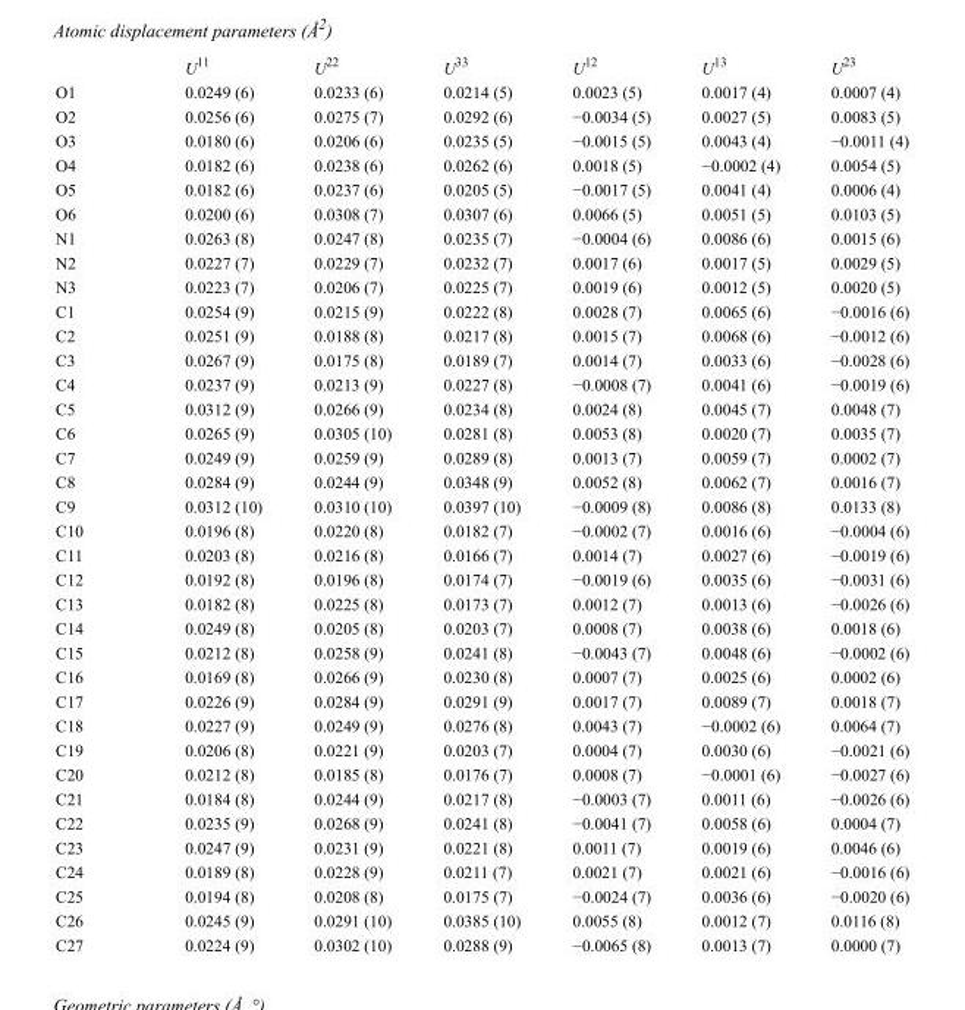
<table><thead><tr><td></td><td>U<sup>11</sup></td><td>U<sup>22</sup></td><td>U<sup>33</sup></td><td>U<sup>12</sup></td><td>U<sup>13</sup></td><td>U<sup>23</sup></td></tr></thead><tbody><tr><td>O1</td><td>0.0249 (6)</td><td>0.0233 (6)</td><td>0.0214 (5)</td><td>0.0023 (5)</td><td>0.0017 (4)</td><td>0.0007 (4)</td></tr><tr><td>O2</td><td>0.0256 (6)</td><td>0.0275 (7)</td><td>0.0292 (6)</td><td>−0.0034 (5)</td><td>0.0027 (5)</td><td>0.0083 (5)</td></tr><tr><td>O3</td><td>0.0180 (6)</td><td>0.0206 (6)</td><td>0.0235 (5)</td><td>−0.0015 (5)</td><td>0.0043 (4)</td><td>−0.0011 (4)</td></tr><tr><td>O4</td><td>0.0182 (6)</td><td>0.0238 (6)</td><td>0.0262 (6)</td><td>0.0018 (5)</td><td>−0.0002 (4)</td><td>0.0054 (5)</td></tr><tr><td>O5</td><td>0.0182 (6)</td><td>0.0237 (6)</td><td>0.0205 (5)</td><td>−0.0017 (5)</td><td>0.0041 (4)</td><td>0.0006 (4)</td></tr><tr><td>O6</td><td>0.0200 (6)</td><td>0.0308 (7)</td><td>0.0307 (6)</td><td>0.0066 (5)</td><td>0.0051 (5)</td><td>0.0103 (5)</td></tr><tr><td>N1</td><td>0.0263 (8)</td><td>0.0247 (8)</td><td>0.0235 (7)</td><td>−0.0004 (6)</td><td>0.0086 (6)</td><td>0.0015 (6)</td></tr><tr><td>N2</td><td>0.0227 (7)</td><td>0.0229 (7)</td><td>0.0232 (7)</td><td>0.0017 (6)</td><td>0.0017 (5)</td><td>0.0029 (5)</td></tr><tr><td>N3</td><td>0.0223 (7)</td><td>0.0206 (7)</td><td>0.0225 (7)</td><td>0.0019 (6)</td><td>0.0012 (5)</td><td>0.0020 (5)</td></tr><tr><td>C1</td><td>0.0254 (9)</td><td>0.0215 (9)</td><td>0.0222 (8)</td><td>0.0028 (7)</td><td>0.0065 (6)</td><td>−0.0016 (6)</td></tr><tr><td>C2</td><td>0.0251 (9)</td><td>0.0188 (8)</td><td>0.0217 (8)</td><td>0.0015 (7)</td><td>0.0068 (6)</td><td>−0.0012 (6)</td></tr><tr><td>C3</td><td>0.0267 (9)</td><td>0.0175 (8)</td><td>0.0189 (7)</td><td>0.0014 (7)</td><td>0.0033 (6)</td><td>−0.0028 (6)</td></tr><tr><td>C4</td><td>0.0237 (9)</td><td>0.0213 (9)</td><td>0.0227 (8)</td><td>−0.0008 (7)</td><td>0.0041 (6)</td><td>−0.0019 (6)</td></tr><tr><td>C5</td><td>0.0312 (9)</td><td>0.0266 (9)</td><td>0.0234 (8)</td><td>0.0024 (8)</td><td>0.0045 (7)</td><td>0.0048 (7)</td></tr><tr><td>C6</td><td>0.0265 (9)</td><td>0.0305 (10)</td><td>0.0281 (8)</td><td>0.0053 (8)</td><td>0.0020 (7)</td><td>0.0035 (7)</td></tr><tr><td>C7</td><td>0.0249 (9)</td><td>0.0259 (9)</td><td>0.0289 (8)</td><td>0.0013 (7)</td><td>0.0059 (7)</td><td>0.0002 (7)</td></tr><tr><td>C8</td><td>0.0284 (9)</td><td>0.0244 (9)</td><td>0.0348 (9)</td><td>0.0052 (8)</td><td>0.0062 (7)</td><td>0.0016 (7)</td></tr><tr><td>C9</td><td>0.0312 (10)</td><td>0.0310 (10)</td><td>0.0397 (10)</td><td>−0.0009 (8)</td><td>0.0086 (8)</td><td>0.0133 (8)</td></tr><tr><td>C10</td><td>0.0196 (8)</td><td>0.0220 (8)</td><td>0.0182 (7)</td><td>−0.0002 (7)</td><td>0.0016 (6)</td><td>−0.0004 (6)</td></tr><tr><td>C11</td><td>0.0203 (8)</td><td>0.0216 (8)</td><td>0.0166 (7)</td><td>0.0014 (7)</td><td>0.0027 (6)</td><td>−0.0019 (6)</td></tr><tr><td>C12</td><td>0.0192 (8)</td><td>0.0196 (8)</td><td>0.0174 (7)</td><td>−0.0019 (6)</td><td>0.0035 (6)</td><td>−0.0031 (6)</td></tr><tr><td>C13</td><td>0.0182 (8)</td><td>0.0225 (8)</td><td>0.0173 (7)</td><td>0.0012 (7)</td><td>0.0013 (6)</td><td>−0.0026 (6)</td></tr><tr><td>C14</td><td>0.0249 (8)</td><td>0.0205 (8)</td><td>0.0203 (7)</td><td>0.0008 (7)</td><td>0.0038 (6)</td><td>0.0018 (6)</td></tr><tr><td>C15</td><td>0.0212 (8)</td><td>0.0258 (9)</td><td>0.0241 (8)</td><td>−0.0043 (7)</td><td>0.0048 (6)</td><td>−0.0002 (6)</td></tr><tr><td>C16</td><td>0.0169 (8)</td><td>0.0266 (9)</td><td>0.0230 (8)</td><td>0.0007 (7)</td><td>0.0025 (6)</td><td>0.0002 (6)</td></tr><tr><td>C17</td><td>0.0226 (9)</td><td>0.0284 (9)</td><td>0.0291 (9)</td><td>0.0017 (7)</td><td>0.0089 (7)</td><td>0.0018 (7)</td></tr><tr><td>C18</td><td>0.0227 (9)</td><td>0.0249 (9)</td><td>0.0276 (8)</td><td>0.0043 (7)</td><td>−0.0002 (6)</td><td>0.0064 (7)</td></tr><tr><td>C19</td><td>0.0206 (8)</td><td>0.0221 (9)</td><td>0.0203 (7)</td><td>0.0004 (7)</td><td>0.0030 (6)</td><td>−0.0021 (6)</td></tr><tr><td>C20</td><td>0.0212 (8)</td><td>0.0185 (8)</td><td>0.0176 (7)</td><td>0.0008 (7)</td><td>−0.0001 (6)</td><td>−0.0027 (6)</td></tr><tr><td>C21</td><td>0.0184 (8)</td><td>0.0244 (9)</td><td>0.0217 (8)</td><td>−0.0003 (7)</td><td>0.0011 (6)</td><td>−0.0026 (6)</td></tr><tr><td>C22</td><td>0.0235 (9)</td><td>0.0268 (9)</td><td>0.0241 (8)</td><td>−0.0041 (7)</td><td>0.0058 (6)</td><td>0.0004 (7)</td></tr><tr><td>C23</td><td>0.0247 (9)</td><td>0.0231 (9)</td><td>0.0221 (8)</td><td>0.0011 (7)</td><td>0.0019 (6)</td><td>0.0046 (6)</td></tr><tr><td>C24</td><td>0.0189 (8)</td><td>0.0228 (9)</td><td>0.0211 (7)</td><td>0.0021 (7)</td><td>0.0021 (6)</td><td>−0.0016 (6)</td></tr><tr><td>C25</td><td>0.0194 (8)</td><td>0.0208 (8)</td><td>0.0175 (7)</td><td>−0.0024 (7)</td><td>0.0036 (6)</td><td>−0.0020 (6)</td></tr><tr><td>C26</td><td>0.0245 (9)</td><td>0.0291 (10)</td><td>0.0385 (10)</td><td>0.0055 (8)</td><td>0.0012 (7)</td><td>0.0116 (8)</td></tr><tr><td>C27</td><td>0.0224 (9)</td><td>0.0302 (10)</td><td>0.0288 (9)</td><td>−0.0065 (8)</td><td>0.0013 (7)</td><td>0.0000 (7)</td></tr></tbody></table>